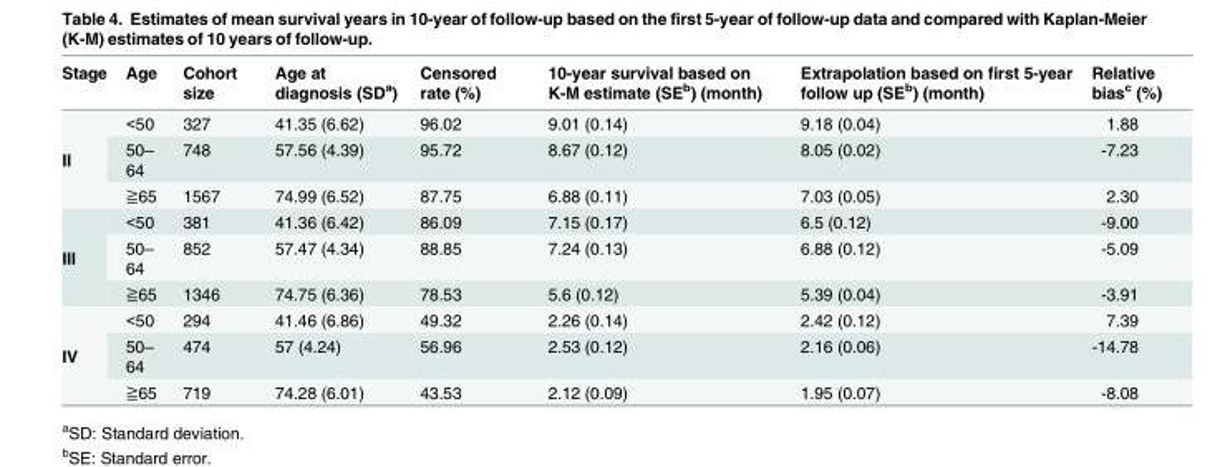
<table><thead><tr><td>Stage</td><td>Age</td><td>Cohort size</td><td>Age at diagnosis (SD<sup>a</sup>)</td><td>Censored rate (%)</td><td>10-year survival based on K-M estimate (SE<sup>b</sup>) (month)</td><td>Extrapolation based on first 5-year follow up (SE<sup>b</sup>) (month)</td><td>Relative bias<sup>c</sup> (%)</td></tr></thead><tbody><tr><td rowspan="3">II</td><td>&lt;50</td><td>327</td><td>41.35 (6.62)</td><td>96.02</td><td>9.01 (0.14)</td><td>9.18 (0.04)</td><td>1.88</td></tr><tr><td>50– 64</td><td>748</td><td>57.56 (4.39)</td><td>95.72</td><td>8.67 (0.12)</td><td>8.05 (0.02)</td><td>-7.23</td></tr><tr><td>≧65</td><td>1567</td><td>74.99 (6.52)</td><td>87.75</td><td>6.88 (0.11)</td><td>7.03 (0.05)</td><td>2.30</td></tr><tr><td rowspan="3">III</td><td>&lt;50</td><td>381</td><td>41.36 (6.42)</td><td>86.09</td><td>7.15 (0.17)</td><td>6.5 (0.12)</td><td>-9.00</td></tr><tr><td>50– 64</td><td>852</td><td>57.47 (4.34)</td><td>88.85</td><td>7.24 (0.13)</td><td>6.88 (0.12)</td><td>-5.09</td></tr><tr><td>≧65</td><td>1346</td><td>74.75 (6.36)</td><td>78.53</td><td>5.6 (0.12)</td><td>5.39 (0.04)</td><td>-3.91</td></tr><tr><td rowspan="3">IV</td><td>&lt;50</td><td>294</td><td>41.46 (6.86)</td><td>49.32</td><td>2.26 (0.14)</td><td>2.42 (0.12)</td><td>7.39</td></tr><tr><td>50– 64</td><td>474</td><td>57 (4.24)</td><td>56.96</td><td>2.53 (0.12)</td><td>2.16 (0.06)</td><td>-14.78</td></tr><tr><td>≧65</td><td>719</td><td>74.28 (6.01)</td><td>43.53</td><td>2.12 (0.09)</td><td>1.95 (0.07)</td><td>-8.08</td></tr></tbody></table>